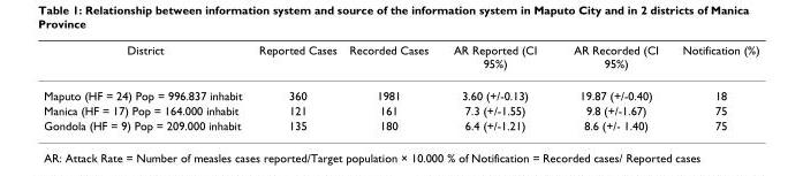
<table><thead><tr><td>District</td><td>Reported Cases</td><td>Recorded Cases</td><td>AR Reported (CI 95%)</td><td>AR Recorded (CI 95%)</td><td>Notification (%)</td></tr></thead><tbody><tr><td>Maputo (HF = 24) Pop = 996.837 inhabit</td><td>360</td><td>1981</td><td>3.60 (+/-0.13)</td><td>19.87 (+/-0.40)</td><td>18</td></tr><tr><td>Manica (HF = 17) Pop = 164.000 inhabit</td><td>121</td><td>161</td><td>7.3 (+/-1.55)</td><td>9.8 (+/-1.67)</td><td>75</td></tr><tr><td>Gondola (HF = 9) Pop = 209.000 inhabit</td><td>135</td><td>180</td><td>6.4 (+/-1.21)</td><td>8.6 (+/- 1.40)</td><td>75</td></tr></tbody></table>